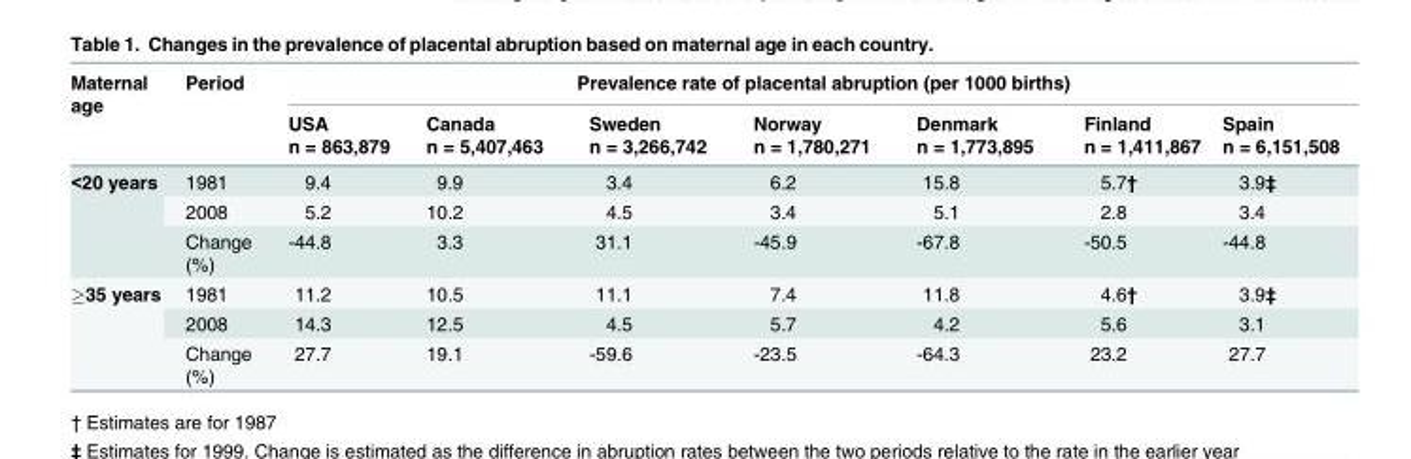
<table><thead><tr><td rowspan="2">Maternal age</td><td rowspan="2">Period</td><td colspan="7">Prevalence rate of placental abruption (per 1000 births)</td></tr><tr><td>USA n = 863,879</td><td>Canada n = 5,407,463</td><td>Sweden n = 3,266,742</td><td>Norway n = 1,780,271</td><td>Denmark n = 1,773,895</td><td>Finland n = 1,411,867</td><td>Spain n = 6,151,508</td></tr></thead><tbody><tr><td rowspan="3">&lt;20 years</td><td>1981</td><td>9.4</td><td>9.9</td><td>3.4</td><td>6.2</td><td>15.8</td><td>5.7†</td><td>3.9‡</td></tr><tr><td>2008</td><td>5.2</td><td>10.2</td><td>4.5</td><td>3.4</td><td>5.1</td><td>2.8</td><td>3.4</td></tr><tr><td>Change (%)</td><td>-44.8</td><td>3.3</td><td>31.1</td><td>-45.9</td><td>-67.8</td><td>-50.5</td><td>-44.8</td></tr><tr><td rowspan="3">≥35 years</td><td>1981</td><td>11.2</td><td>10.5</td><td>11.1</td><td>7.4</td><td>11.8</td><td>4.6†</td><td>3.9‡</td></tr><tr><td>2008</td><td>14.3</td><td>12.5</td><td>4.5</td><td>5.7</td><td>4.2</td><td>5.6</td><td>3.1</td></tr><tr><td>Change (%)</td><td>27.7</td><td>19.1</td><td>-59.6</td><td>-23.5</td><td>-64.3</td><td>23.2</td><td>27.7</td></tr></tbody></table>